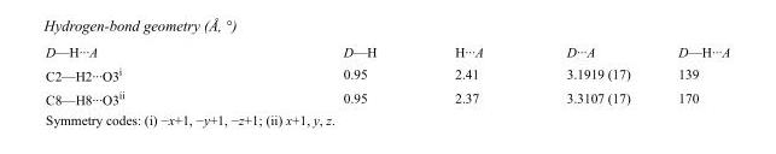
<table><tbody><tr><td>D—H···A</td><td>D—H</td><td>H···A</td><td>D···A</td><td>D—H···A</td></tr><tr><td>C2—H2···O3<sup>i</sup></td><td>0.95</td><td>2.41</td><td>3.1919 (17)</td><td>139</td></tr><tr><td>C8—H8···O3<sup>ii</sup></td><td>0.95</td><td>2.37</td><td>3.3107 (17)</td><td>170</td></tr></tbody></table>